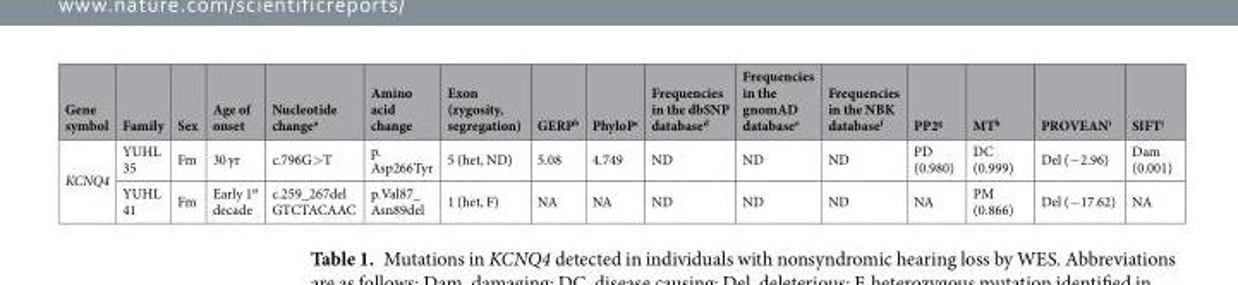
<table><thead><tr><td>Gene symbol</td><td>Family</td><td>Sex</td><td>Age of onset</td><td>Nucleotide change<sup>a</sup></td><td>Amino acid change</td><td>Exon (zygosity, segregation)</td><td>GERP<sup>b</sup></td><td>PhyloP<sup>c</sup></td><td>Frequencies in the dbSNP database<sup>d</sup></td><td>Frequencies in the gnomAD database<sup>e</sup></td><td>Frequencies in the NBK database<sup>f</sup></td><td>PP2<sup>g</sup></td><td>MT<sup>h</sup></td><td>PROVEAN<sup>i</sup></td><td>SIFT<sup>j</sup></td></tr></thead><tbody><tr><td rowspan="2">KCNQ4</td><td>YUHL 35</td><td>Fm</td><td>30 yr</td><td>c.796G&gt;T</td><td>p. Asp266Tyr</td><td>5 (het, ND)</td><td>5.08</td><td>4.749</td><td>ND</td><td>ND</td><td>ND</td><td>PD (0.980)</td><td>DC (0.999)</td><td>Del (−2.96)</td><td>Dam (0.001)</td></tr><tr><td>YUHL 41</td><td>Fm</td><td>Early 1<sup>st</sup> decade</td><td>c.259_267del GTCTACAAC</td><td>p.Val87_ Asn89del</td><td>1 (het, F)</td><td>NA</td><td>NA</td><td>ND</td><td>ND</td><td>ND</td><td>NA</td><td>PM (0.866)</td><td>Del (−17.62)</td><td>NA</td></tr></tbody></table>